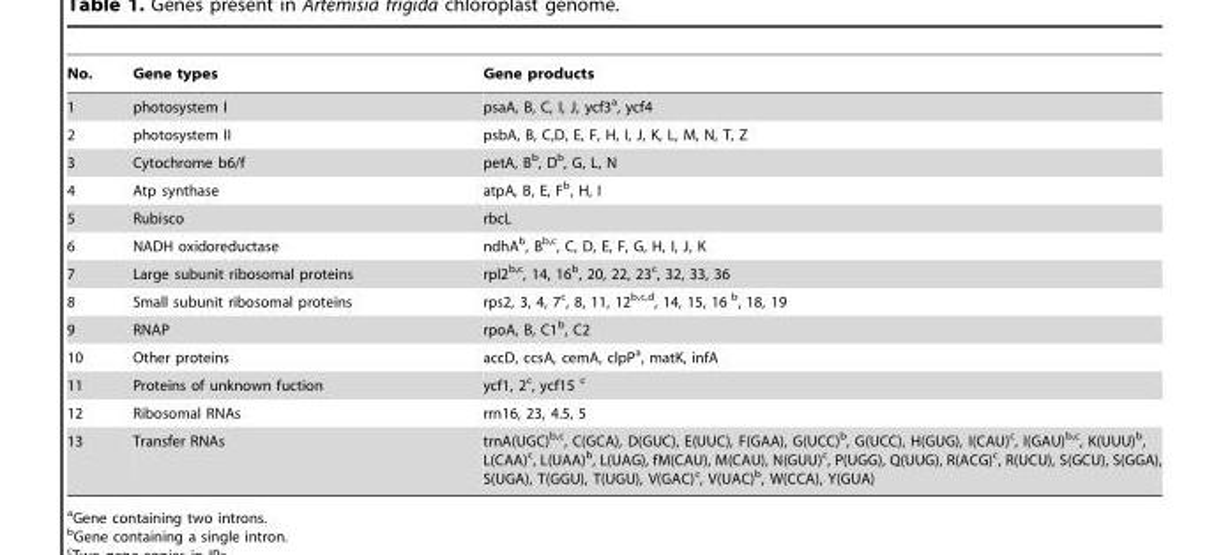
<table><thead><tr><td>No.</td><td>Gene types</td><td>Gene products</td></tr></thead><tbody><tr><td>1</td><td>photosystem I</td><td>psaA, B, C, I, J, ycf3<sup>a</sup>, ycf4</td></tr><tr><td>2</td><td>photosystem II</td><td>psbA, B, C,D, E, F, H, I, J, K, L, M, N, T, Z</td></tr><tr><td>3</td><td>Cytochrome b6/f</td><td>petA, B<sup>b</sup>, D<sup>b</sup>, G, L, N</td></tr><tr><td>4</td><td>Atp synthase</td><td>atpA, B, E, F<sup>b</sup>, H, I</td></tr><tr><td>5</td><td>Rubisco</td><td>rbcL</td></tr><tr><td>6</td><td>NADH oxidoreductase</td><td>ndhA<sup>b</sup>, Bb,c, C, D, E, F, G, H, I, J, K</td></tr><tr><td>7</td><td>Large subunit ribosomal proteins</td><td>rpl2b,c, 14, 16<sup>b</sup>, 20, 22, 23<sup>c</sup>, 32, 33, 36</td></tr><tr><td>8</td><td>Small subunit ribosomal proteins</td><td>rps2, 3, 4, 7<sup>c</sup>, 8, 11, 12b,c,d, 14, 15, 16 <sup>b</sup>, 18, 19</td></tr><tr><td>9</td><td>RNAP</td><td>rpoA, B, C1<sup>b</sup>, C2</td></tr><tr><td>10</td><td>Other proteins</td><td>accD, ccsA, cemA, clpP<sup>a</sup>, matK, infA</td></tr><tr><td>11</td><td>Proteins of unknown fuction</td><td>ycf1, 2<sup>c</sup>, ycf15 c</td></tr><tr><td>12</td><td>Ribosomal RNAs</td><td>rrn16, 23, 4.5, 5</td></tr><tr><td>13</td><td>Transfer RNAs</td><td>trnA(UGC)b,c, C(GCA), D(GUC), E(UUC), F(GAA), G(UCC)<sup>b</sup>, G(UCC), H(GUG), I(CAU)<sup>c</sup>, I(GAU)b,c, K(UUU)<sup>b</sup>, L(CAA)<sup>c</sup>, L(UAA)<sup>b</sup>, L(UAG), fM(CAU), M(CAU), N(GUU)<sup>c</sup>, P(UGG), Q(UUG), R(ACG)<sup>c</sup>, R(UCU), S(GCU), S(GGA), S(UGA), T(GGU), T(UGU), V(GAC)<sup>c</sup>, V(UAC)<sup>b</sup>, W(CCA), Y(GUA)</td></tr></tbody></table>